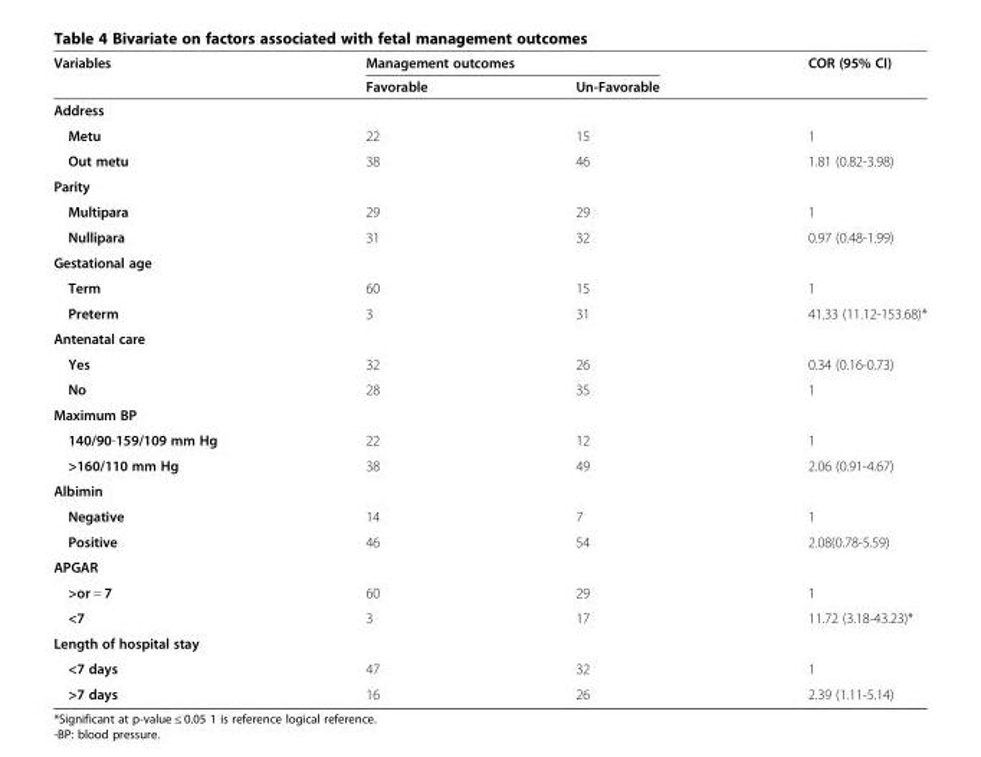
<table><thead><tr><td rowspan="2">Variables</td><td colspan="2">Management outcomes</td><td rowspan="2">COR (95% CI)</td></tr><tr><td>Favorable</td><td>Un-Favorable</td></tr></thead><tbody><tr><td colspan="4">Address</td></tr><tr><td>Metu</td><td>22</td><td>15</td><td>1</td></tr><tr><td>Out metu</td><td>38</td><td>46</td><td>1.81 (0.82-3.98)</td></tr><tr><td colspan="4">Parity</td></tr><tr><td>Multipara</td><td>29</td><td>29</td><td>1</td></tr><tr><td>Nullipara</td><td>31</td><td>32</td><td>0.97 (0.48-1.99)</td></tr><tr><td colspan="4">Gestational age</td></tr><tr><td>Term</td><td>60</td><td>15</td><td>1</td></tr><tr><td>Preterm</td><td>3</td><td>31</td><td>41.33 (11.12-153.68)*</td></tr><tr><td colspan="4">Antenatal care</td></tr><tr><td>Yes</td><td>32</td><td>26</td><td>0.34 (0.16-0.73)</td></tr><tr><td>No</td><td>28</td><td>35</td><td>1</td></tr><tr><td colspan="4">Maximum BP</td></tr><tr><td>140/90-159/109 mm Hg</td><td>22</td><td>12</td><td>1</td></tr><tr><td>&gt;160/110 mm Hg</td><td>38</td><td>49</td><td>2.06 (0.91-4.67)</td></tr><tr><td colspan="4">Albimin</td></tr><tr><td>Negative</td><td>14</td><td>7</td><td>1</td></tr><tr><td>Positive</td><td>46</td><td>54</td><td>2.08(0.78-5.59)</td></tr><tr><td colspan="4">APGAR</td></tr><tr><td>&gt;or = 7</td><td>60</td><td>29</td><td>1</td></tr><tr><td>&lt;7</td><td>3</td><td>17</td><td>11.72 (3.18-43.23)*</td></tr><tr><td colspan="4">Length of hospital stay</td></tr><tr><td>&lt;7 days</td><td>47</td><td>32</td><td>1</td></tr><tr><td>&gt;7 days</td><td>16</td><td>26</td><td>2.39 (1.11-5.14)</td></tr></tbody></table>